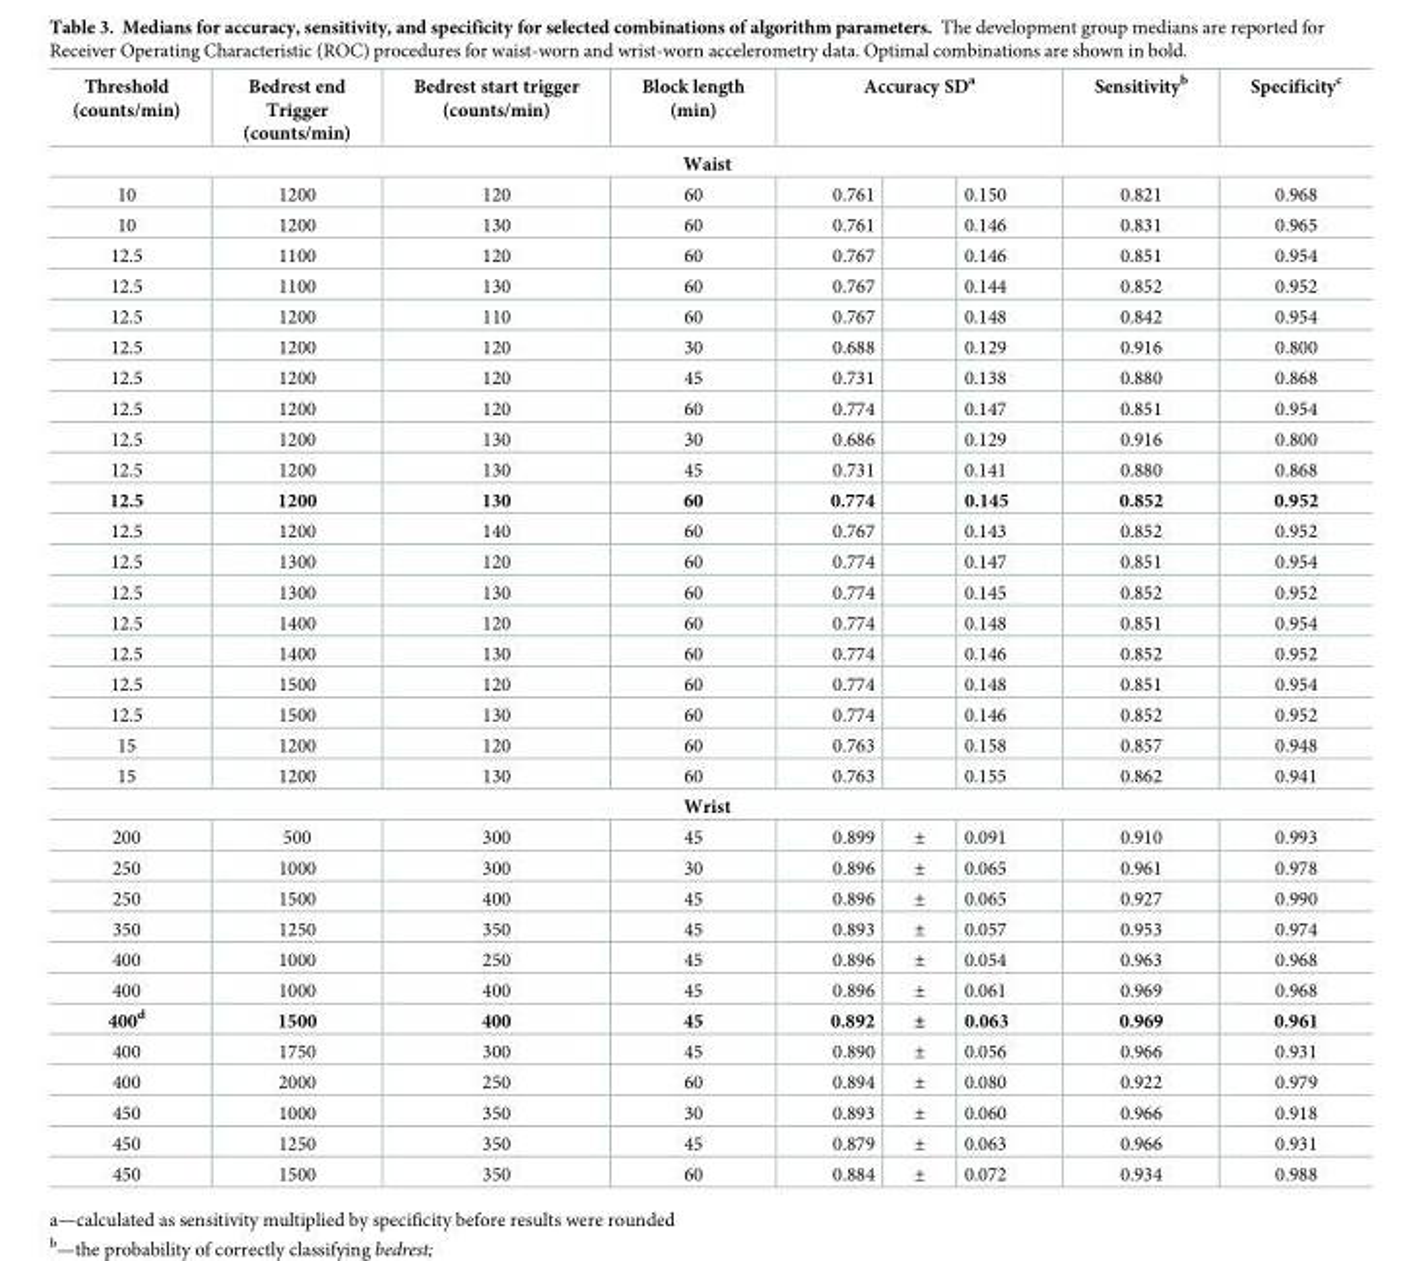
<table><thead><tr><td>Threshold (counts/min)</td><td>Bedrest end Trigger (counts/min)</td><td>Bedrest start trigger (counts/min)</td><td>Block length (min)</td><td colspan="3">Accuracy SD<sup>a</sup></td><td>Sensitivity<sup>b</sup></td><td>Specificity<sup>c</sup></td></tr><tr><td colspan="9">Waist</td></tr><tr><td>10</td><td>1200</td><td>120</td><td>60</td><td>0.761</td><td></td><td>0.150</td><td>0.821</td><td>0.968</td></tr></thead><tbody><tr><td>10</td><td>1200</td><td>130</td><td>60</td><td>0.761</td><td></td><td>0.146</td><td>0.831</td><td>0.965</td></tr><tr><td>12.5</td><td>1100</td><td>120</td><td>60</td><td>0.767</td><td></td><td>0.146</td><td>0.851</td><td>0.954</td></tr><tr><td>12.5</td><td>1100</td><td>130</td><td>60</td><td>0.767</td><td></td><td>0.144</td><td>0.852</td><td>0.952</td></tr><tr><td>12.5</td><td>1200</td><td>110</td><td>60</td><td>0.767</td><td></td><td>0.148</td><td>0.842</td><td>0.954</td></tr><tr><td>12.5</td><td>1200</td><td>120</td><td>30</td><td>0.688</td><td></td><td>0.129</td><td>0.916</td><td>0.800</td></tr><tr><td>12.5</td><td>1200</td><td>120</td><td>45</td><td>0.731</td><td></td><td>0.138</td><td>0.880</td><td>0.868</td></tr><tr><td>12.5</td><td>1200</td><td>120</td><td>60</td><td>0.774</td><td></td><td>0.147</td><td>0.851</td><td>0.954</td></tr><tr><td>12.5</td><td>1200</td><td>130</td><td>30</td><td>0.686</td><td></td><td>0.129</td><td>0.916</td><td>0.800</td></tr><tr><td>12.5</td><td>1200</td><td>130</td><td>45</td><td>0.731</td><td></td><td>0.141</td><td>0.880</td><td>0.868</td></tr><tr><td>12.5</td><td>1200</td><td>130</td><td>60</td><td>0.774</td><td></td><td>0.145</td><td>0.852</td><td>0.952</td></tr><tr><td>12.5</td><td>1200</td><td>140</td><td>60</td><td>0.767</td><td></td><td>0.143</td><td>0.852</td><td>0.952</td></tr><tr><td>12.5</td><td>1300</td><td>120</td><td>60</td><td>0.774</td><td></td><td>0.147</td><td>0.851</td><td>0.954</td></tr><tr><td>12.5</td><td>1300</td><td>130</td><td>60</td><td>0.774</td><td></td><td>0.145</td><td>0.852</td><td>0.952</td></tr><tr><td>12.5</td><td>1400</td><td>120</td><td>60</td><td>0.774</td><td></td><td>0.148</td><td>0.851</td><td>0.954</td></tr><tr><td>12.5</td><td>1400</td><td>130</td><td>60</td><td>0.774</td><td></td><td>0.146</td><td>0.852</td><td>0.952</td></tr><tr><td>12.5</td><td>1500</td><td>120</td><td>60</td><td>0.774</td><td></td><td>0.148</td><td>0.851</td><td>0.954</td></tr><tr><td>12.5</td><td>1500</td><td>130</td><td>60</td><td>0.774</td><td></td><td>0.146</td><td>0.852</td><td>0.952</td></tr><tr><td>15</td><td>1200</td><td>120</td><td>60</td><td>0.763</td><td></td><td>0.158</td><td>0.857</td><td>0.948</td></tr><tr><td>15</td><td>1200</td><td>130</td><td>60</td><td>0.763</td><td></td><td>0.155</td><td>0.862</td><td>0.941</td></tr><tr><td colspan="9">Wrist</td></tr><tr><td>200</td><td>500</td><td>300</td><td>45</td><td>0.899</td><td>±</td><td>0.091</td><td>0.910</td><td>0.993</td></tr><tr><td>250</td><td>1000</td><td>300</td><td>30</td><td>0.896</td><td>±</td><td>0.065</td><td>0.961</td><td>0.978</td></tr><tr><td>250</td><td>1500</td><td>400</td><td>45</td><td>0.896</td><td>±</td><td>0.065</td><td>0.927</td><td>0.990</td></tr><tr><td>350</td><td>1250</td><td>350</td><td>45</td><td>0.893</td><td>±</td><td>0.057</td><td>0.953</td><td>0.974</td></tr><tr><td>400</td><td>1000</td><td>250</td><td>45</td><td>0.896</td><td>±</td><td>0.054</td><td>0.963</td><td>0.968</td></tr><tr><td>400</td><td>1000</td><td>400</td><td>45</td><td>0.896</td><td>±</td><td>0.061</td><td>0.969</td><td>0.968</td></tr><tr><td>400<sup>d</sup></td><td>1500</td><td>400</td><td>45</td><td>0.892</td><td>±</td><td>0.063</td><td>0.969</td><td>0.961</td></tr><tr><td>400</td><td>1750</td><td>300</td><td>45</td><td>0.890</td><td>±</td><td>0.056</td><td>0.966</td><td>0.931</td></tr><tr><td>400</td><td>2000</td><td>250</td><td>60</td><td>0.894</td><td>±</td><td>0.080</td><td>0.922</td><td>0.979</td></tr><tr><td>450</td><td>1000</td><td>350</td><td>30</td><td>0.893</td><td>±</td><td>0.060</td><td>0.966</td><td>0.918</td></tr><tr><td>450</td><td>1250</td><td>350</td><td>45</td><td>0.879</td><td>±</td><td>0.063</td><td>0.966</td><td>0.931</td></tr><tr><td>450</td><td>1500</td><td>350</td><td>60</td><td>0.884</td><td>±</td><td>0.072</td><td>0.934</td><td>0.988</td></tr></tbody></table>